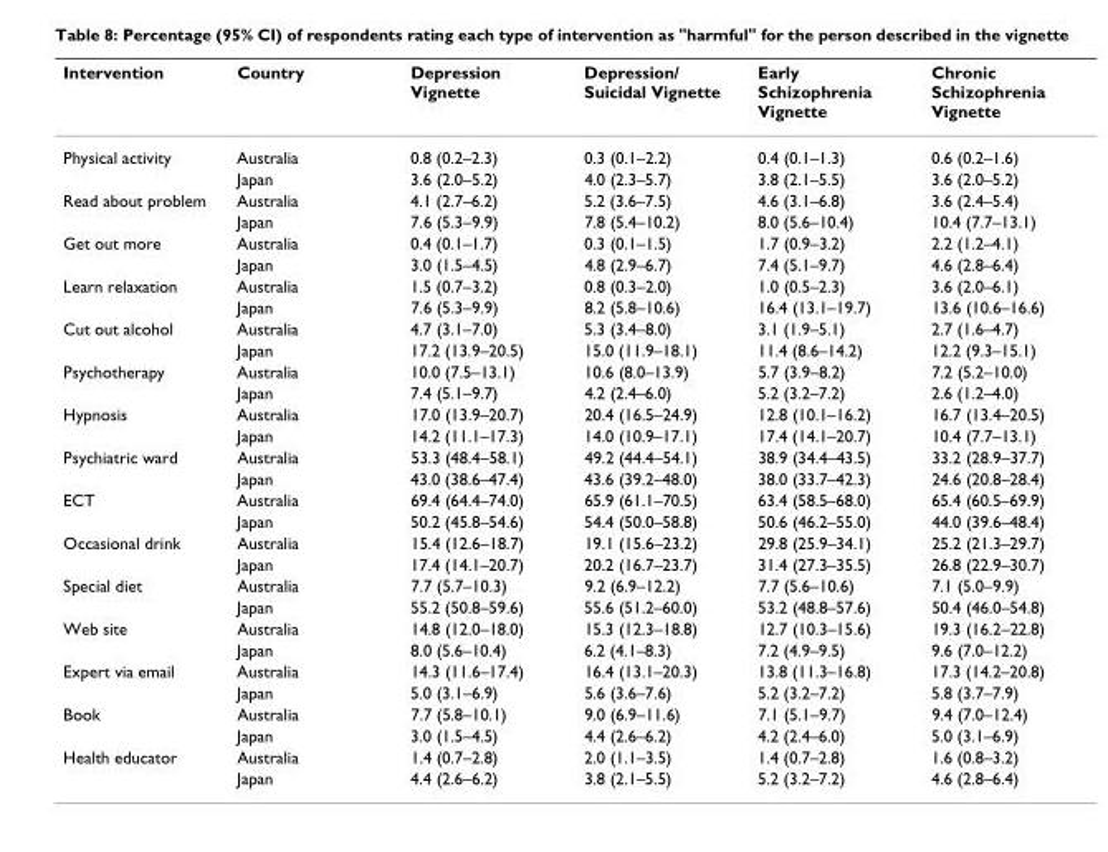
<table><thead><tr><td>Intervention</td><td>Country</td><td>Depression Vignette</td><td>Depression/ Suicidal Vignette</td><td>Early Schizophrenia Vignette</td><td>Chronic Schizophrenia Vignette</td></tr></thead><tbody><tr><td rowspan="2">Physical activity</td><td>Australia</td><td>0.8 (0.2–2.3)</td><td>0.3 (0.1–2.2)</td><td>0.4 (0.1–1.3)</td><td>0.6 (0.2–1.6)</td></tr><tr><td>Japan</td><td>3.6 (2.0–5.2)</td><td>4.0 (2.3–5.7)</td><td>3.8 (2.1–5.5)</td><td>3.6 (2.0–5.2)</td></tr><tr><td rowspan="2">Read about problem</td><td>Australia</td><td>4.1 (2.7–6.2)</td><td>5.2 (3.6–7.5)</td><td>4.6 (3.1–6.8)</td><td>3.6 (2.4–5.4)</td></tr><tr><td>Japan</td><td>7.6 (5.3–9.9)</td><td>7.8 (5.4–10.2)</td><td>8.0 (5.6–10.4)</td><td>10.4 (7.7–13.1)</td></tr><tr><td rowspan="2">Get out more</td><td>Australia</td><td>0.4 (0.1–1.7)</td><td>0.3 (0.1–1.5)</td><td>1.7 (0.9–3.2)</td><td>2.2 (1.2–4.1)</td></tr><tr><td>Japan</td><td>3.0 (1.5–4.5)</td><td>4.8 (2.9–6.7)</td><td>7.4 (5.1–9.7)</td><td>4.6 (2.8–6.4)</td></tr><tr><td rowspan="2">Learn relaxation</td><td>Australia</td><td>1.5 (0.7–3.2)</td><td>0.8 (0.3–2.0)</td><td>1.0 (0.5–2.3)</td><td>3.6 (2.0–6.1)</td></tr><tr><td>Japan</td><td>7.6 (5.3–9.9)</td><td>8.2 (5.8–10.6)</td><td>16.4 (13.1–19.7)</td><td>13.6 (10.6–16.6)</td></tr><tr><td rowspan="2">Cut out alcohol</td><td>Australia</td><td>4.7 (3.1–7.0)</td><td>5.3 (3.4–8.0)</td><td>3.1 (1.9–5.1)</td><td>2.7 (1.6–4.7)</td></tr><tr><td>Japan</td><td>17.2 (13.9–20.5)</td><td>15.0 (11.9–18.1)</td><td>11.4 (8.6–14.2)</td><td>12.2 (9.3–15.1)</td></tr><tr><td rowspan="2">Psychotherapy</td><td>Australia</td><td>10.0 (7.5–13.1)</td><td>10.6 (8.0–13.9)</td><td>5.7 (3.9–8.2)</td><td>7.2 (5.2–10.0)</td></tr><tr><td>Japan</td><td>7.4 (5.1–9.7)</td><td>4.2 (2.4–6.0)</td><td>5.2 (3.2–7.2)</td><td>2.6 (1.2–4.0)</td></tr><tr><td rowspan="2">Hypnosis</td><td>Australia</td><td>17.0 (13.9–20.7)</td><td>20.4 (16.5–24.9)</td><td>12.8 (10.1–16.2)</td><td>16.7 (13.4–20.5)</td></tr><tr><td>Japan</td><td>14.2 (11.1–17.3)</td><td>14.0 (10.9–17.1)</td><td>17.4 (14.1–20.7)</td><td>10.4 (7.7–13.1)</td></tr><tr><td rowspan="2">Psychiatric ward</td><td>Australia</td><td>53.3 (48.4–58.1)</td><td>49.2 (44.4–54.1)</td><td>38.9 (34.4–43.5)</td><td>33.2 (28.9–37.7)</td></tr><tr><td>Japan</td><td>43.0 (38.6–47.4)</td><td>43.6 (39.2–48.0)</td><td>38.0 (33.7–42.3)</td><td>24.6 (20.8–28.4)</td></tr><tr><td rowspan="2">ECT</td><td>Australia</td><td>69.4 (64.4–74.0)</td><td>65.9 (61.1–70.5)</td><td>63.4 (58.5–68.0)</td><td>65.4 (60.5–69.9)</td></tr><tr><td>Japan</td><td>50.2 (45.8–54.6)</td><td>54.4 (50.0–58.8)</td><td>50.6 (46.2–55.0)</td><td>44.0 (39.6–48.4)</td></tr><tr><td rowspan="2">Occasional drink</td><td>Australia</td><td>15.4 (12.6–18.7)</td><td>19.1 (15.6–23.2)</td><td>29.8 (25.9–34.1)</td><td>25.2 (21.3–29.7)</td></tr><tr><td>Japan</td><td>17.4 (14.1–20.7)</td><td>20.2 (16.7–23.7)</td><td>31.4 (27.3–35.5)</td><td>26.8 (22.9–30.7)</td></tr><tr><td rowspan="2">Special diet</td><td>Australia</td><td>7.7 (5.7–10.3)</td><td>9.2 (6.9–12.2)</td><td>7.7 (5.6–10.6)</td><td>7.1 (5.0–9.9)</td></tr><tr><td>Japan</td><td>55.2 (50.8–59.6)</td><td>55.6 (51.2–60.0)</td><td>53.2 (48.8–57.6)</td><td>50.4 (46.0–54.8)</td></tr><tr><td rowspan="2">Web site</td><td>Australia</td><td>14.8 (12.0–18.0)</td><td>15.3 (12.3–18.8)</td><td>12.7 (10.3–15.6)</td><td>19.3 (16.2–22.8)</td></tr><tr><td>Japan</td><td>8.0 (5.6–10.4)</td><td>6.2 (4.1–8.3)</td><td>7.2 (4.9–9.5)</td><td>9.6 (7.0–12.2)</td></tr><tr><td rowspan="2">Expert via email</td><td>Australia</td><td>14.3 (11.6–17.4)</td><td>16.4 (13.1–20.3)</td><td>13.8 (11.3–16.8)</td><td>17.3 (14.2–20.8)</td></tr><tr><td>Japan</td><td>5.0 (3.1–6.9)</td><td>5.6 (3.6–7.6)</td><td>5.2 (3.2–7.2)</td><td>5.8 (3.7–7.9)</td></tr><tr><td rowspan="2">Book</td><td>Australia</td><td>7.7 (5.8–10.1)</td><td>9.0 (6.9–11.6)</td><td>7.1 (5.1–9.7)</td><td>9.4 (7.0–12.4)</td></tr><tr><td>Japan</td><td>3.0 (1.5–4.5)</td><td>4.4 (2.6–6.2)</td><td>4.2 (2.4–6.0)</td><td>5.0 (3.1–6.9)</td></tr><tr><td rowspan="2">Health educator</td><td>Australia</td><td>1.4 (0.7–2.8)</td><td>2.0 (1.1–3.5)</td><td>1.4 (0.7–2.8)</td><td>1.6 (0.8–3.2)</td></tr><tr><td>Japan</td><td>4.4 (2.6–6.2)</td><td>3.8 (2.1–5.5)</td><td>5.2 (3.2–7.2)</td><td>4.6 (2.8–6.4)</td></tr></tbody></table>